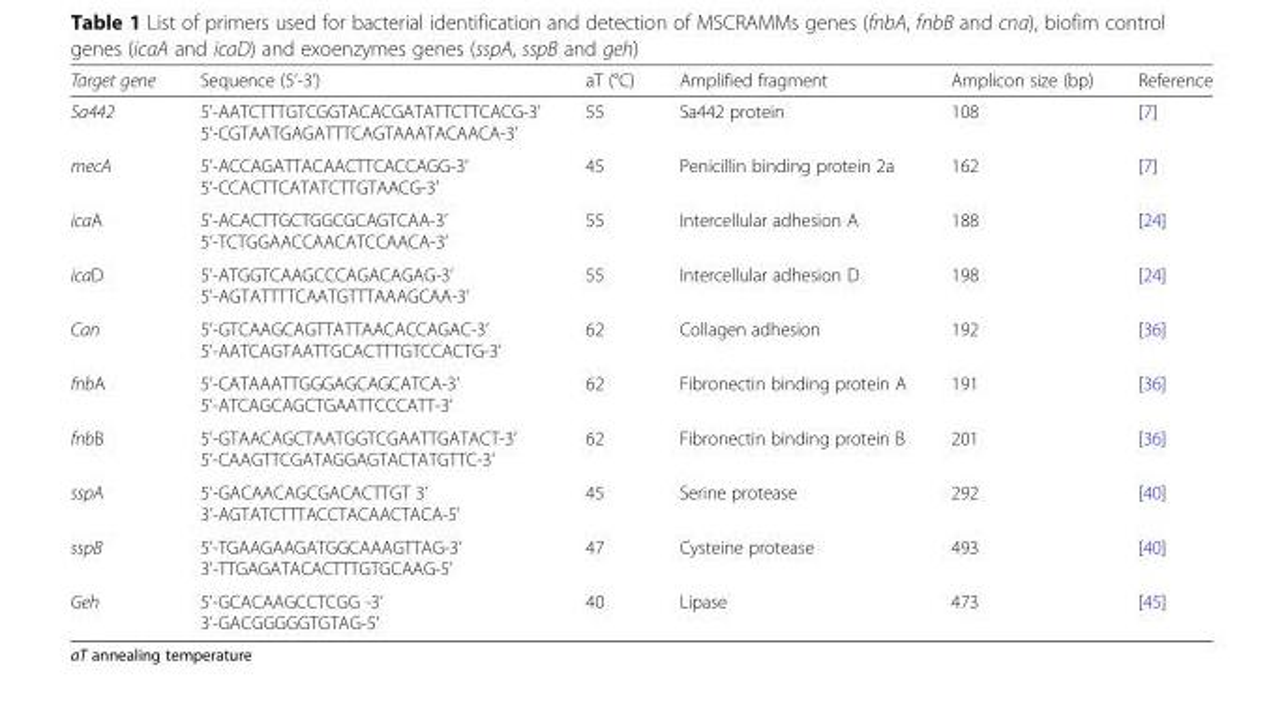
<table><thead><tr><td>Target gene</td><td>Sequence (5’-3’)</td><td>aT (°C)</td><td>Amplified fragment</td><td>Amplicon size (bp)</td><td>Reference</td></tr></thead><tbody><tr><td>Sa442</td><td>5’-AATCTTTGTCGGTACACGATATTCTTCACG-3’ 5’-CGTAATGAGATTTCAGTAAATACAACA-3’</td><td>55</td><td>Sa442 protein</td><td>108</td><td>[7]</td></tr><tr><td>mecA</td><td>5’-ACCAGATTACAACTTCACCAGG-3’ 5’-CCACTTCATATCTTGTAACG-3’</td><td>45</td><td>Penicillin binding protein 2a</td><td>162</td><td>[7]</td></tr><tr><td>icaA</td><td>5’-ACACTTGCTGGCGCAGTCAA-3’ 5’-TCTGGAACCAACATCCAACA-3’</td><td>55</td><td>Intercellular adhesion A</td><td>188</td><td>[24]</td></tr><tr><td>icaD</td><td>5’-ATGGTCAAGCCCAGACAGAG-3’ 5’-AGTATTTTCAATGTTTAAAGCAA-3’</td><td>55</td><td>Intercellular adhesion D</td><td>198</td><td>[24]</td></tr><tr><td>Can</td><td>5’-GTCAAGCAGTTATTAACACCAGAC-3’ 5’-AATCAGTAATTGCACTTTGTCCACTG-3’</td><td>62</td><td>Collagen adhesion</td><td>192</td><td>[36]</td></tr><tr><td>fnbA</td><td>5’-CATAAATTGGGAGCAGCATCA-3’ 5’-ATCAGCAGCTGAATTCCCATT-3’</td><td>62</td><td>Fibronectin binding protein A</td><td>191</td><td>[36]</td></tr><tr><td>fnbB</td><td>5’-GTAACAGCTAATGGTCGAATTGATACT-3’ 5’-CAAGTTCGATAGGAGTACTATGTTC-3’</td><td>62</td><td>Fibronectin binding protein B</td><td>201</td><td>[36]</td></tr><tr><td>sspA</td><td>5’-GACAACAGCGACACTTGT 3’ 3’-AGTATCTTTACCTACAACTACA-5’</td><td>45</td><td>Serine protease</td><td>292</td><td>[40]</td></tr><tr><td>sspB</td><td>5’-TGAAGAAGATGGCAAAGTTAG-3’ 3’-TTGAGATACACTTTGTGCAAG-5’</td><td>47</td><td>Cysteine protease</td><td>493</td><td>[40]</td></tr><tr><td>Geh</td><td>5’-GCACAAGCCTCGG -3’ 3’-GACGGGGGTGTAG-5’</td><td>40</td><td>Lipase</td><td>473</td><td>[45]</td></tr></tbody></table>